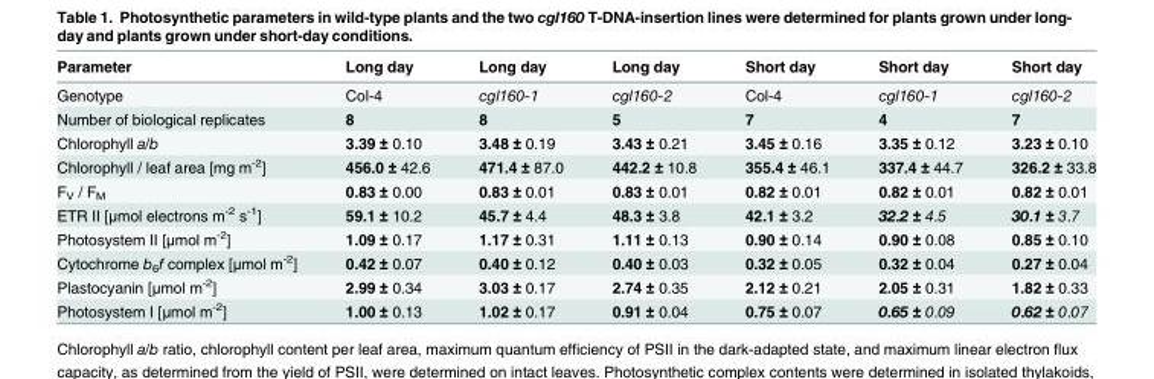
<table><thead><tr><td>Parameter</td><td>Long day</td><td>Long day</td><td>Long day</td><td>Short day</td><td>Short day</td><td>Short day</td></tr></thead><tbody><tr><td>Genotype</td><td>Col-4</td><td>cgl160-1</td><td>cgl160-2</td><td>Col-4</td><td>cgl160-1</td><td>cgl160-2</td></tr><tr><td>Number of biological replicates</td><td>8</td><td>8</td><td>5</td><td>7</td><td>4</td><td>7</td></tr><tr><td>Chlorophyll a/b</td><td>3.39 ± 0.10</td><td>3.48 ± 0.19</td><td>3.43 ± 0.21</td><td>3.45 ± 0.16</td><td>3.35 ± 0.12</td><td>3.23 ± 0.10</td></tr><tr><td>Chlorophyll / leaf area [mg m<sup>-2</sup>]</td><td>456.0 ± 42.6</td><td>471.4 ± 87.0</td><td>442.2 ± 10.8</td><td>355.4 ± 46.1</td><td>337.4 ± 44.7</td><td>326.2 ± 33.8</td></tr><tr><td>F<sub>V</sub> / F<sub>M</sub></td><td>0.83 ± 0.00</td><td>0.83 ± 0.01</td><td>0.83 ± 0.01</td><td>0.82 ± 0.01</td><td>0.82 ± 0.01</td><td>0.82 ± 0.01</td></tr><tr><td>ETR II [μmol electrons m<sup>-2</sup> s<sup>-1</sup>]</td><td>59.1 ± 10.2</td><td>45.7 ± 4.4</td><td>48.3 ± 3.8</td><td>42.1 ± 3.2</td><td>32.2 ± 4.5</td><td>30.1 ± 3.7</td></tr><tr><td>Photosystem II [μmol m<sup>-2</sup>]</td><td>1.09 ± 0.17</td><td>1.17 ± 0.31</td><td>1.11 ± 0.13</td><td>0.90 ± 0.14</td><td>0.90 ± 0.08</td><td>0.85 ± 0.10</td></tr><tr><td>Cytochrome b<sub>6</sub>f complex [μmol m<sup>-2</sup>]</td><td>0.42 ± 0.07</td><td>0.40 ± 0.12</td><td>0.40 ± 0.03</td><td>0.32 ± 0.05</td><td>0.32 ± 0.04</td><td>0.27 ± 0.04</td></tr><tr><td>Plastocyanin [μmol m<sup>-2</sup>]</td><td>2.99 ± 0.34</td><td>3.03 ± 0.17</td><td>2.74 ± 0.35</td><td>2.12 ± 0.21</td><td>2.05 ± 0.31</td><td>1.82 ± 0.33</td></tr><tr><td>Photosystem I [μmol m<sup>-2</sup>]</td><td>1.00 ± 0.13</td><td>1.02 ± 0.17</td><td>0.91 ± 0.04</td><td>0.75 ± 0.07</td><td>0.65 ± 0.09</td><td>0.62 ± 0.07</td></tr></tbody></table>